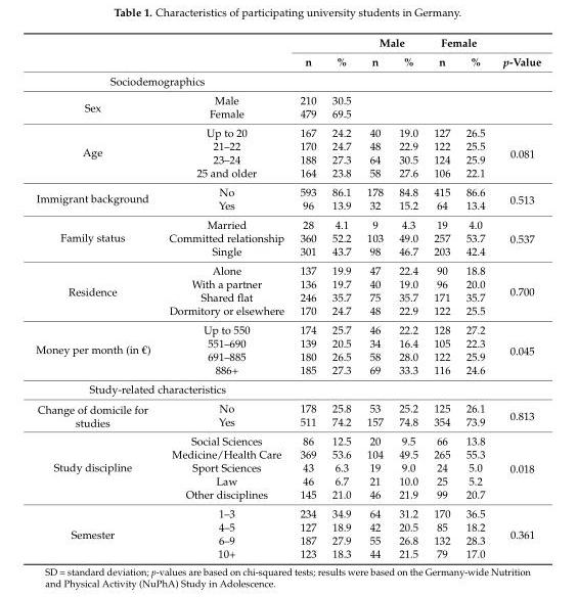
<table><thead><tr><td rowspan="2"></td><td rowspan="2"></td><td rowspan="2">n</td><td rowspan="2">%</td><td colspan="2">Male</td><td colspan="2">Female</td><td rowspan="2">p-Value</td></tr><tr><td>n</td><td>%</td><td>n</td><td>%</td></tr></thead><tbody><tr><td colspan="9">Sociodemographics</td></tr><tr><td rowspan="2">Sex</td><td>Male</td><td>210</td><td>30.5</td><td></td><td></td><td></td><td></td><td rowspan="2"></td></tr><tr><td>Female</td><td>479</td><td>69.5</td><td></td><td></td><td></td><td></td></tr><tr><td rowspan="4">Age</td><td>Up to 20</td><td>167</td><td>24.2</td><td>40</td><td>19.0</td><td>127</td><td>26.5</td><td rowspan="4">0.081</td></tr><tr><td>21–22</td><td>170</td><td>24.7</td><td>48</td><td>22.9</td><td>122</td><td>25.5</td></tr><tr><td>23–24</td><td>188</td><td>27.3</td><td>64</td><td>30.5</td><td>124</td><td>25.9</td></tr><tr><td>25 and older</td><td>164</td><td>23.8</td><td>58</td><td>27.6</td><td>106</td><td>22.1</td></tr><tr><td rowspan="2">Immigrant background</td><td>No</td><td>593</td><td>86.1</td><td>178</td><td>84.8</td><td>415</td><td>86.6</td><td rowspan="2">0.513</td></tr><tr><td>Yes</td><td>96</td><td>13.9</td><td>32</td><td>15.2</td><td>64</td><td>13.4</td></tr><tr><td rowspan="3">Family status</td><td>Married</td><td>28</td><td>4.1</td><td>9</td><td>4.3</td><td>19</td><td>4.0</td><td rowspan="3">0.537</td></tr><tr><td>Committed relationship</td><td>360</td><td>52.2</td><td>103</td><td>49.0</td><td>257</td><td>53.7</td></tr><tr><td>Single</td><td>301</td><td>43.7</td><td>98</td><td>46.7</td><td>203</td><td>42.4</td></tr><tr><td rowspan="4">Residence</td><td>Alone</td><td>137</td><td>19.9</td><td>47</td><td>22.4</td><td>90</td><td>18.8</td><td rowspan="4">0.700</td></tr><tr><td>With a partner</td><td>136</td><td>19.7</td><td>40</td><td>19.0</td><td>96</td><td>20.0</td></tr><tr><td>Shared flat</td><td>246</td><td>35.7</td><td>75</td><td>35.7</td><td>171</td><td>35.7</td></tr><tr><td>Dormitory or elsewhere</td><td>170</td><td>24.7</td><td>48</td><td>22.9</td><td>122</td><td>25.5</td></tr><tr><td rowspan="4">Money per month (in €)</td><td>Up to 550</td><td>174</td><td>25.7</td><td>46</td><td>22.2</td><td>128</td><td>27.2</td><td rowspan="4">0.045</td></tr><tr><td>551–690</td><td>139</td><td>20.5</td><td>34</td><td>16.4</td><td>105</td><td>22.3</td></tr><tr><td>691–885</td><td>180</td><td>26.5</td><td>58</td><td>28.0</td><td>122</td><td>25.9</td></tr><tr><td>886+</td><td>185</td><td>27.3</td><td>69</td><td>33.3</td><td>116</td><td>24.6</td></tr><tr><td colspan="9">Study-related characteristics</td></tr><tr><td rowspan="2">Change of domicile for studies</td><td>No</td><td>178</td><td>25.8</td><td>53</td><td>25.2</td><td>125</td><td>26.1</td><td rowspan="2">0.813</td></tr><tr><td>Yes</td><td>511</td><td>74.2</td><td>157</td><td>74.8</td><td>354</td><td>73.9</td></tr><tr><td rowspan="5">Study discipline</td><td>Social Sciences</td><td>86</td><td>12.5</td><td>20</td><td>9.5</td><td>66</td><td>13.8</td><td rowspan="5">0.018</td></tr><tr><td>Medicine/Health Care</td><td>369</td><td>53.6</td><td>104</td><td>49.5</td><td>265</td><td>55.3</td></tr><tr><td>Sport Sciences</td><td>43</td><td>6.3</td><td>19</td><td>9.0</td><td>24</td><td>5.0</td></tr><tr><td>Law</td><td>46</td><td>6.7</td><td>21</td><td>10.0</td><td>25</td><td>5.2</td></tr><tr><td>Other disciplines</td><td>145</td><td>21.0</td><td>46</td><td>21.9</td><td>99</td><td>20.7</td></tr><tr><td rowspan="4">Semester</td><td>1–3</td><td>234</td><td>34.9</td><td>64</td><td>31.2</td><td>170</td><td>36.5</td><td rowspan="4">0.361</td></tr><tr><td>4–5</td><td>127</td><td>18.9</td><td>42</td><td>20.5</td><td>85</td><td>18.2</td></tr><tr><td>6–9</td><td>187</td><td>27.9</td><td>55</td><td>26.8</td><td>132</td><td>28.3</td></tr><tr><td>10+</td><td>123</td><td>18.3</td><td>44</td><td>21.5</td><td>79</td><td>17.0</td></tr></tbody></table>